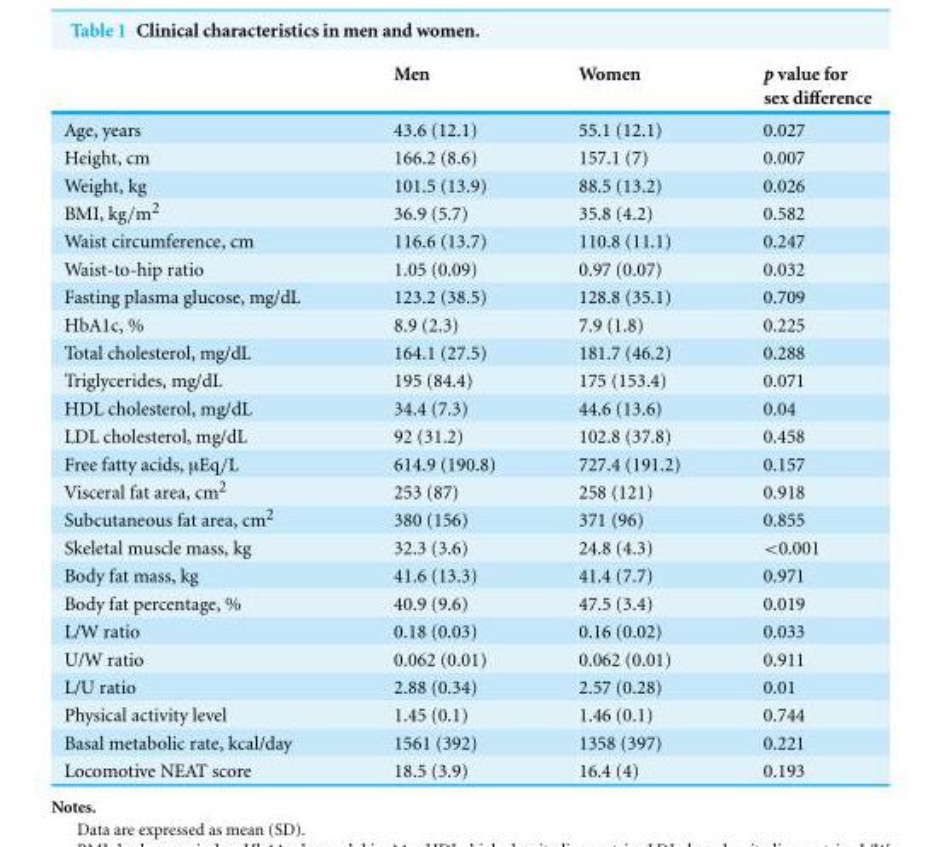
<table><thead><tr><td></td><td>Men</td><td>Women</td><td>p value for sex difference</td></tr></thead><tbody><tr><td>Age, years</td><td>43.6 (12.1)</td><td>55.1 (12.1)</td><td>0.027</td></tr><tr><td>Height, cm</td><td>166.2 (8.6)</td><td>157.1 (7)</td><td>0.007</td></tr><tr><td>Weight, kg</td><td>101.5 (13.9)</td><td>88.5 (13.2)</td><td>0.026</td></tr><tr><td>BMI, kg/m<sup>2</sup></td><td>36.9 (5.7)</td><td>35.8 (4.2)</td><td>0.582</td></tr><tr><td>Waist circumference, cm</td><td>116.6 (13.7)</td><td>110.8 (11.1)</td><td>0.247</td></tr><tr><td>Waist-to-hip ratio</td><td>1.05 (0.09)</td><td>0.97 (0.07)</td><td>0.032</td></tr><tr><td>Fasting plasma glucose, mg/dL</td><td>123.2 (38.5)</td><td>128.8 (35.1)</td><td>0.709</td></tr><tr><td>HbA1c, %</td><td>8.9 (2.3)</td><td>7.9 (1.8)</td><td>0.225</td></tr><tr><td>Total cholesterol, mg/dL</td><td>164.1 (27.5)</td><td>181.7 (46.2)</td><td>0.288</td></tr><tr><td>Triglycerides, mg/dL</td><td>195 (84.4)</td><td>175 (153.4)</td><td>0.071</td></tr><tr><td>HDL cholesterol, mg/dL</td><td>34.4 (7.3)</td><td>44.6 (13.6)</td><td>0.04</td></tr><tr><td>LDL cholesterol, mg/dL</td><td>92 (31.2)</td><td>102.8 (37.8)</td><td>0.458</td></tr><tr><td>Free fatty acids, µEq/L</td><td>614.9 (190.8)</td><td>727.4 (191.2)</td><td>0.157</td></tr><tr><td>Visceral fat area, cm<sup>2</sup></td><td>253 (87)</td><td>258 (121)</td><td>0.918</td></tr><tr><td>Subcutaneous fat area, cm<sup>2</sup></td><td>380 (156)</td><td>371 (96)</td><td>0.855</td></tr><tr><td>Skeletal muscle mass, kg</td><td>32.3 (3.6)</td><td>24.8 (4.3)</td><td>&lt;0.001</td></tr><tr><td>Body fat mass, kg</td><td>41.6 (13.3)</td><td>41.4 (7.7)</td><td>0.971</td></tr><tr><td>Body fat percentage, %</td><td>40.9 (9.6)</td><td>47.5 (3.4)</td><td>0.019</td></tr><tr><td>L/W ratio</td><td>0.18 (0.03)</td><td>0.16 (0.02)</td><td>0.033</td></tr><tr><td>U/W ratio</td><td>0.062 (0.01)</td><td>0.062 (0.01)</td><td>0.911</td></tr><tr><td>L/U ratio</td><td>2.88 (0.34)</td><td>2.57 (0.28)</td><td>0.01</td></tr><tr><td>Physical activity level</td><td>1.45 (0.1)</td><td>1.46 (0.1)</td><td>0.744</td></tr><tr><td>Basal metabolic rate, kcal/day</td><td>1561 (392)</td><td>1358 (397)</td><td>0.221</td></tr><tr><td>Locomotive NEAT score</td><td>18.5 (3.9)</td><td>16.4 (4)</td><td>0.193</td></tr></tbody></table>